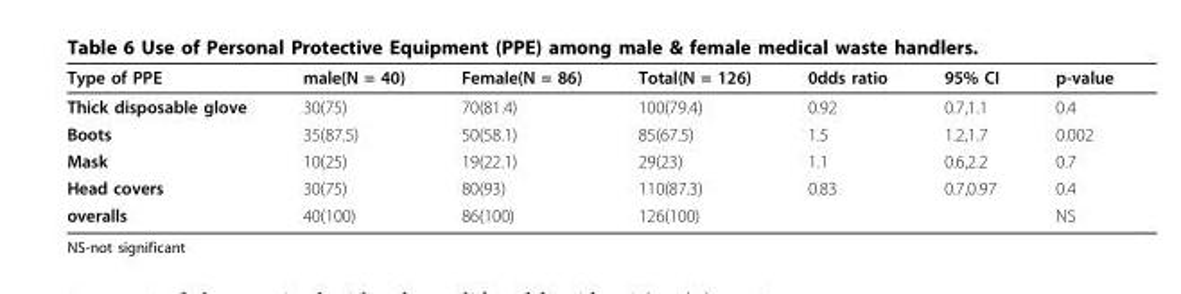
<table><thead><tr><td>Type of PPE</td><td>male(N = 40)</td><td>Female(N = 86)</td><td>Total(N = 126)</td><td>0dds ratio</td><td>95% CI</td><td>p-value</td></tr></thead><tbody><tr><td>Thick disposable glove</td><td>30(75)</td><td>70(81.4)</td><td>100(79.4)</td><td>0.92</td><td>0.7,1.1</td><td>0.4</td></tr><tr><td>Boots</td><td>35(87.5)</td><td>50(58.1)</td><td>85(67.5)</td><td>1.5</td><td>1.2,1.7</td><td>0.002</td></tr><tr><td>Mask</td><td>10(25)</td><td>19(22.1)</td><td>29(23)</td><td>1.1</td><td>0.6,2.2</td><td>0.7</td></tr><tr><td>Head covers</td><td>30(75)</td><td>80(93)</td><td>110(87.3)</td><td>0.83</td><td>0.7,0.97</td><td>0.4</td></tr><tr><td>overalls</td><td>40(100)</td><td>86(100)</td><td>126(100)</td><td></td><td></td><td>NS</td></tr></tbody></table>